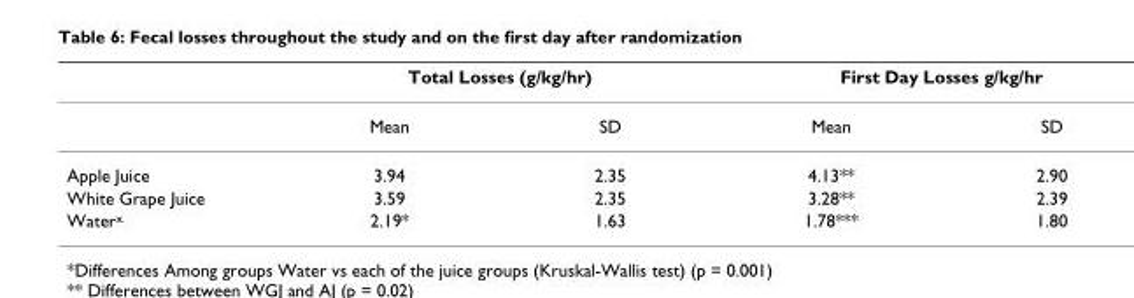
<table><thead><tr><td rowspan="2"></td><td colspan="2">Total Losses (g/kg/hr)</td><td colspan="2">First Day Losses g/kg/hr</td></tr><tr><td>Mean</td><td>SD</td><td>Mean</td><td>SD</td></tr></thead><tbody><tr><td>Apple Juice</td><td>3.94</td><td>2.35</td><td>4.13**</td><td>2.90</td></tr><tr><td>White Grape Juice</td><td>3.59</td><td>2.35</td><td>3.28**</td><td>2.39</td></tr><tr><td>Water<sup>x</sup></td><td>2.19*</td><td>1.63</td><td>1.78***</td><td>1.80</td></tr></tbody></table>